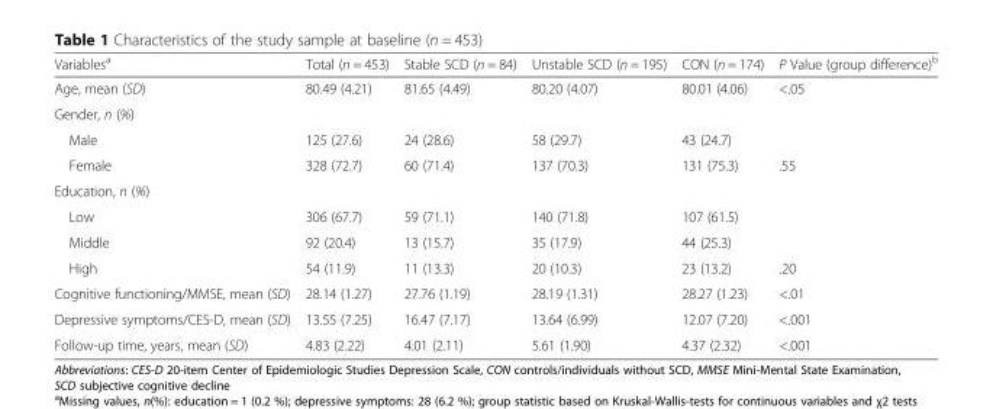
<table><thead><tr><td>Variables<sup>a</sup></td><td>Total (n = 453)</td><td>Stable SCD (n = 84)</td><td>Unstable SCD (n = 195)</td><td>CON (n = 174)</td><td>P Value (group difference)<sup>b</sup></td></tr></thead><tbody><tr><td>Age, mean (SD)</td><td>80.49 (4.21)</td><td>81.65 (4.49)</td><td>80.20 (4.07)</td><td>80.01 (4.06)</td><td>&lt;.05</td></tr><tr><td colspan="6">Gender, n (%)</td></tr><tr><td>Male</td><td>125 (27.6)</td><td>24 (28.6)</td><td>58 (29.7)</td><td>43 (24.7)</td><td></td></tr><tr><td>Female</td><td>328 (72.7)</td><td>60 (71.4)</td><td>137 (70.3)</td><td>131 (75.3)</td><td>.55</td></tr><tr><td colspan="6">Education, n (%)</td></tr><tr><td>Low</td><td>306 (67.7)</td><td>59 (71.1)</td><td>140 (71.8)</td><td>107 (61.5)</td><td rowspan="2"></td></tr><tr><td>Middle</td><td>92 (20.4)</td><td>13 (15.7)</td><td>35 (17.9)</td><td>44 (25.3)</td></tr><tr><td>High</td><td>54 (11.9)</td><td>11 (13.3)</td><td>20 (10.3)</td><td>23 (13.2)</td><td>.20</td></tr><tr><td>Cognitive functioning/MMSE, mean (SD)</td><td>28.14 (1.27)</td><td>27.76 (1.19)</td><td>28.19 (1.31)</td><td>28.27 (1.23)</td><td>&lt;.01</td></tr><tr><td>Depressive symptoms/CES-D, mean (SD)</td><td>13.55 (7.25)</td><td>16.47 (7.17)</td><td>13.64 (6.99)</td><td>12.07 (7.20)</td><td>&lt;.001</td></tr><tr><td>Follow-up time, years, mean (SD)</td><td>4.83 (2.22)</td><td>4.01 (2.11)</td><td>5.61 (1.90)</td><td>4.37 (2.32)</td><td>&lt;.001</td></tr></tbody></table>